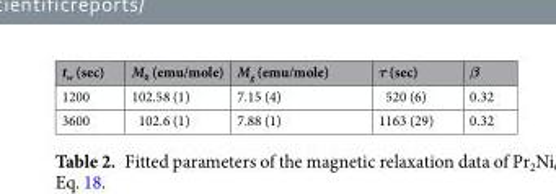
<table><thead><tr><td>t<sub>w</sub> (sec)</td><td>M<sub>0</sub> (emu/mole)</td><td>M<sub>g</sub> (emu/mole)</td><td>τ (sec)</td><td>β</td></tr></thead><tbody><tr><td>1200</td><td>102.58 (1)</td><td>7.15 (4)</td><td>520 (6)</td><td>0.32</td></tr><tr><td>3600</td><td>102.6 (1)</td><td>7.88 (1)</td><td>1163 (29)</td><td>0.32</td></tr></tbody></table>